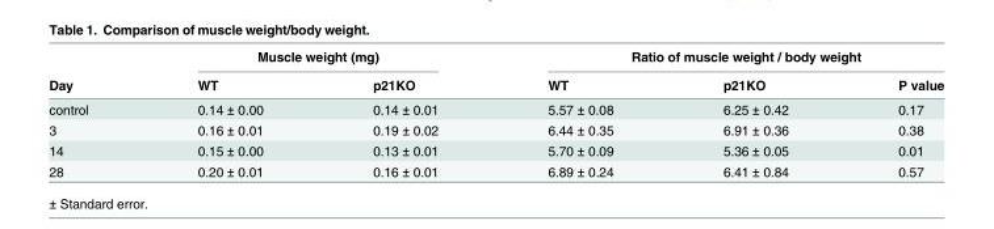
<table><thead><tr><td rowspan="2">Day</td><td colspan="2">Muscle weight (mg)</td><td colspan="3">Ratio of muscle weight / body weight</td></tr><tr><td>WT</td><td>p21KO</td><td>WT</td><td>p21KO</td><td>P value</td></tr></thead><tbody><tr><td>control</td><td>0.14 ± 0.00</td><td>0.14 ± 0.01</td><td>5.57 ± 0.08</td><td>6.25 ± 0.42</td><td>0.17</td></tr><tr><td>3</td><td>0.16 ± 0.01</td><td>0.19 ± 0.02</td><td>6.44 ± 0.35</td><td>6.91 ± 0.36</td><td>0.38</td></tr><tr><td>14</td><td>0.15 ± 0.00</td><td>0.13 ± 0.01</td><td>5.70 ± 0.09</td><td>5.36 ± 0.05</td><td>0.01</td></tr><tr><td>28</td><td>0.20 ± 0.01</td><td>0.16 ± 0.01</td><td>6.89 ± 0.24</td><td>6.41 ± 0.84</td><td>0.57</td></tr></tbody></table>